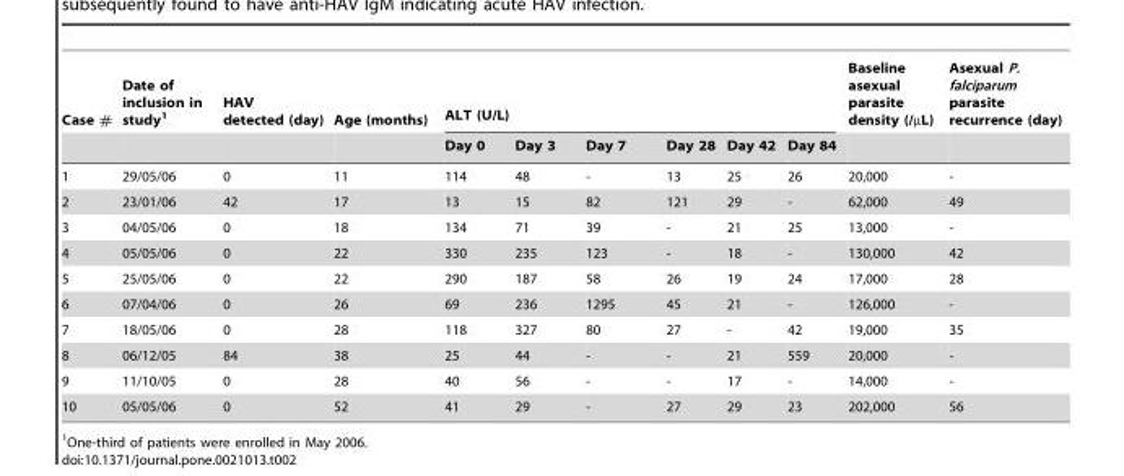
<table><thead><tr><td rowspan="2">Case #</td><td rowspan="2">Date of inclusion in study<sup>1</sup></td><td rowspan="2">HAV detected (day)</td><td rowspan="2">Age (months)</td><td colspan="6">ALT (U/L)</td><td rowspan="2">Baseline asexual parasite density (/µL)</td><td rowspan="2">Asexual P. falciparum parasite recurrence (day)</td></tr><tr><td>Day 0</td><td>Day 3</td><td>Day 7</td><td>Day 28</td><td>Day 42</td><td>Day 84</td></tr></thead><tbody><tr><td>1</td><td>29/05/06</td><td>0</td><td>11</td><td>114</td><td>48</td><td>-</td><td>13</td><td>25</td><td>26</td><td>20,000</td><td>-</td></tr><tr><td>2</td><td>23/01/06</td><td>42</td><td>17</td><td>13</td><td>15</td><td>82</td><td>121</td><td>29</td><td>-</td><td>62,000</td><td>49</td></tr><tr><td>3</td><td>04/05/06</td><td>0</td><td>18</td><td>134</td><td>71</td><td>39</td><td>-</td><td>21</td><td>25</td><td>13,000</td><td>-</td></tr><tr><td>4</td><td>05/05/06</td><td>0</td><td>22</td><td>330</td><td>235</td><td>123</td><td>-</td><td>18</td><td>-</td><td>130,000</td><td>42</td></tr><tr><td>5</td><td>25/05/06</td><td>0</td><td>22</td><td>290</td><td>187</td><td>58</td><td>26</td><td>19</td><td>24</td><td>17,000</td><td>28</td></tr><tr><td>6</td><td>07/04/06</td><td>0</td><td>26</td><td>69</td><td>236</td><td>1295</td><td>45</td><td>21</td><td>-</td><td>126,000</td><td>-</td></tr><tr><td>7</td><td>18/05/06</td><td>0</td><td>28</td><td>118</td><td>327</td><td>80</td><td>27</td><td>-</td><td>42</td><td>19,000</td><td>35</td></tr><tr><td>8</td><td>06/12/05</td><td>84</td><td>38</td><td>25</td><td>44</td><td>-</td><td>-</td><td>21</td><td>559</td><td>20,000</td><td>-</td></tr><tr><td>9</td><td>11/10/05</td><td>0</td><td>28</td><td>40</td><td>56</td><td>-</td><td>-</td><td>17</td><td>-</td><td>14,000</td><td>-</td></tr><tr><td>10</td><td>05/05/06</td><td>0</td><td>52</td><td>41</td><td>29</td><td>-</td><td>27</td><td>29</td><td>23</td><td>202,000</td><td>56</td></tr></tbody></table>